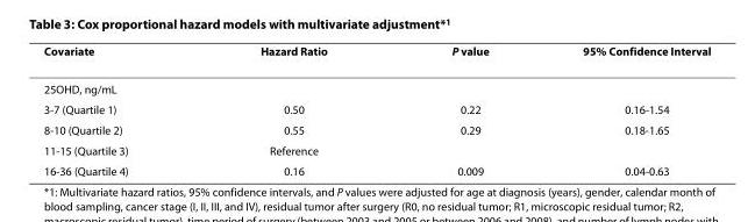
<table><thead><tr><td>Covariate</td><td>Hazard Ratio</td><td>P value</td><td>95% Confidence Interval</td></tr></thead><tbody><tr><td colspan="4">25OHD, ng/mL</td></tr><tr><td>3-7 (Quartile 1)</td><td>0.50</td><td>0.22</td><td>0.16-1.54</td></tr><tr><td>8-10 (Quartile 2)</td><td>0.55</td><td>0.29</td><td>0.18-1.65</td></tr><tr><td>11-15 (Quartile 3)</td><td>Reference</td><td></td><td></td></tr><tr><td>16-36 (Quartile 4)</td><td>0.16</td><td>0.009</td><td>0.04-0.63</td></tr></tbody></table>